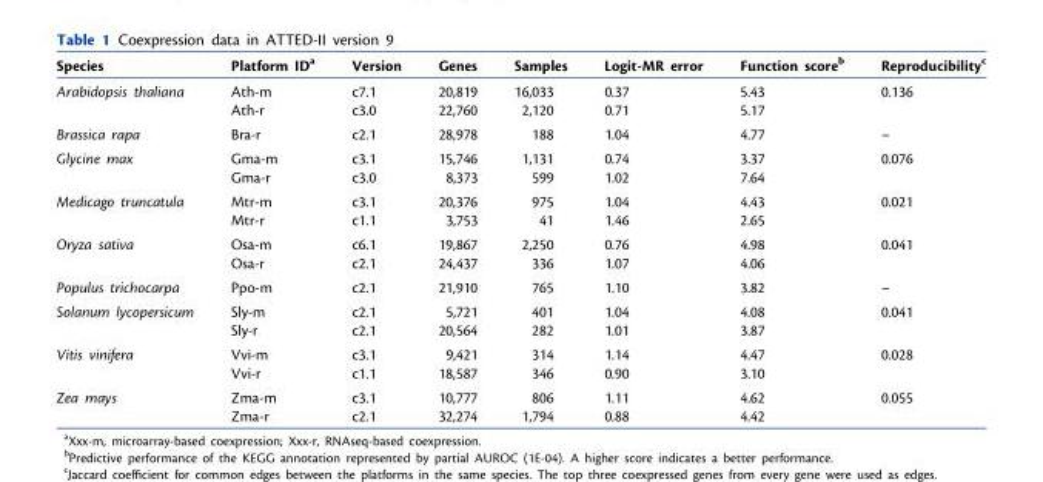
<table><thead><tr><td>Species</td><td>Platform ID<sup>a</sup></td><td>Version</td><td>Genes</td><td>Samples</td><td>Logit-MR error</td><td>Function score<sup>b</sup></td><td>Reproducibility<sup>c</sup></td></tr></thead><tbody><tr><td rowspan="2">Arabidopsis thaliana</td><td>Ath-m</td><td>c7.1</td><td>20,819</td><td>16,033</td><td>0.37</td><td>5.43</td><td rowspan="2">0.136</td></tr><tr><td>Ath-r</td><td>c3.0</td><td>22,760</td><td>2,120</td><td>0.71</td><td>5.17</td></tr><tr><td>Brassica rapa</td><td>Bra-r</td><td>c2.1</td><td>28,978</td><td>188</td><td>1.04</td><td>4.77</td><td>–</td></tr><tr><td rowspan="2">Glycine max</td><td>Gma-m</td><td>c3.1</td><td>15,746</td><td>1,131</td><td>0.74</td><td>3.37</td><td rowspan="2">0.076</td></tr><tr><td>Gma-r</td><td>c3.0</td><td>8,373</td><td>599</td><td>1.02</td><td>7.64</td></tr><tr><td rowspan="2">Medicago truncatula</td><td>Mtr-m</td><td>c3.1</td><td>20,376</td><td>975</td><td>1.04</td><td>4.43</td><td rowspan="2">0.021</td></tr><tr><td>Mtr-r</td><td>c1.1</td><td>3,753</td><td>41</td><td>1.46</td><td>2.65</td></tr><tr><td rowspan="2">Oryza sativa</td><td>Osa-m</td><td>c6.1</td><td>19,867</td><td>2,250</td><td>0.76</td><td>4.98</td><td rowspan="2">0.041</td></tr><tr><td>Osa-r</td><td>c2.1</td><td>24,437</td><td>336</td><td>1.07</td><td>4.06</td></tr><tr><td>Populus trichocarpa</td><td>Ppo-m</td><td>c2.1</td><td>21,910</td><td>765</td><td>1.10</td><td>3.82</td><td>–</td></tr><tr><td rowspan="2">Solanum lycopersicum</td><td>Sly-m</td><td>c2.1</td><td>5,721</td><td>401</td><td>1.04</td><td>4.08</td><td rowspan="2">0.041</td></tr><tr><td>Sly-r</td><td>c2.1</td><td>20,564</td><td>282</td><td>1.01</td><td>3.87</td></tr><tr><td rowspan="2">Vitis vinifera</td><td>Vvi-m</td><td>c3.1</td><td>9,421</td><td>314</td><td>1.14</td><td>4.47</td><td rowspan="2">0.028</td></tr><tr><td>Vvi-r</td><td>c1.1</td><td>18,587</td><td>346</td><td>0.90</td><td>3.10</td></tr><tr><td rowspan="2">Zea mays</td><td>Zma-m</td><td>c3.1</td><td>10,777</td><td>806</td><td>1.11</td><td>4.62</td><td rowspan="2">0.055</td></tr><tr><td>Zma-r</td><td>c2.1</td><td>32,274</td><td>1,794</td><td>0.88</td><td>4.42</td></tr></tbody></table>